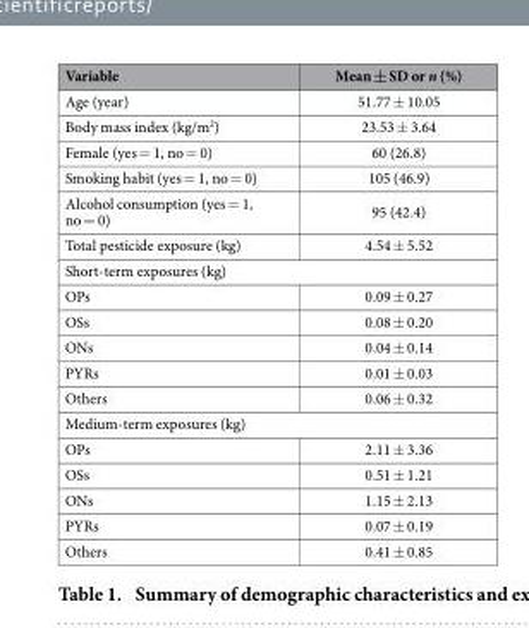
<table><thead><tr><td>Variable</td><td>Mean ± SD or n (%)</td></tr></thead><tbody><tr><td>Age (year)</td><td>51.77 ± 10.05</td></tr><tr><td>Body mass index (kg/m<sup>2</sup>)</td><td>23.53 ± 3.64</td></tr><tr><td>Female (yes = 1, no = 0)</td><td>60 (26.8)</td></tr><tr><td>Smoking habit (yes = 1, no = 0)</td><td>105 (46.9)</td></tr><tr><td>Alcohol consumption (yes = 1, no = 0)</td><td>95 (42.4)</td></tr><tr><td>Total pesticide exposure (kg)</td><td>4.54 ± 5.52</td></tr><tr><td colspan="2">Short-term exposures (kg)</td></tr><tr><td>OPs</td><td>0.09 ± 0.27</td></tr><tr><td>OSs</td><td>0.08 ± 0.20</td></tr><tr><td>ONs</td><td>0.04 ± 0.14</td></tr><tr><td>PYRs</td><td>0.01 ± 0.03</td></tr><tr><td>Others</td><td>0.06 ± 0.32</td></tr><tr><td colspan="2">Medium-term exposures (kg)</td></tr><tr><td>OPs</td><td>2.11 ± 3.36</td></tr><tr><td>OSs</td><td>0.51 ± 1.21</td></tr><tr><td>ONs</td><td>1.15 ± 2.13</td></tr><tr><td>PYRs</td><td>0.07 ± 0.19</td></tr><tr><td>Others</td><td>0.41 ± 0.85</td></tr></tbody></table>